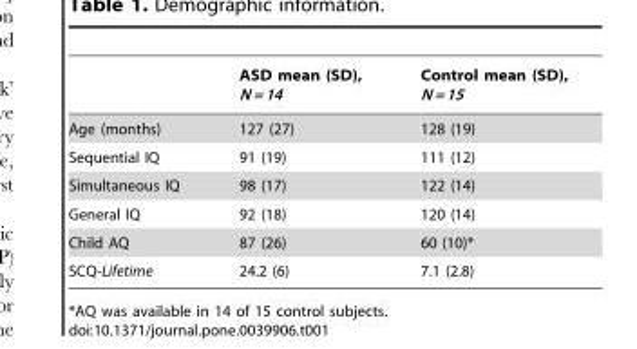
<table><thead><tr><td></td><td>ASD mean (SD), N = 14</td><td>Control mean (SD), N = 15</td></tr></thead><tbody><tr><td>Age (months)</td><td>127 (27)</td><td>128 (19)</td></tr><tr><td>Sequential IQ</td><td>91 (19)</td><td>111 (12)</td></tr><tr><td>Simultaneous IQ</td><td>98 (17)</td><td>122 (14)</td></tr><tr><td>General IQ</td><td>92 (18)</td><td>120 (14)</td></tr><tr><td>Child AQ</td><td>87 (26)</td><td>60 (10)*</td></tr><tr><td>SCQ-Lifetime</td><td>24.2 (6)</td><td>7.1 (2.8)</td></tr></tbody></table>